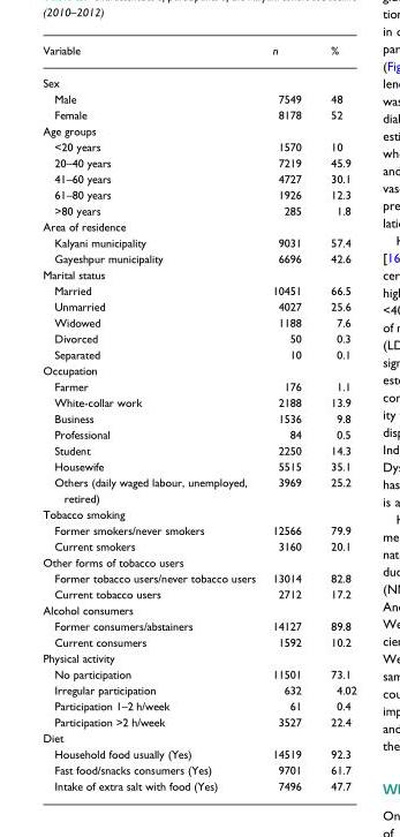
<table><thead><tr><td>Variable</td><td>n</td><td>%</td></tr></thead><tbody><tr><td colspan="3">Sex</td></tr><tr><td>Male</td><td>7549</td><td>48</td></tr><tr><td>Female</td><td>8178</td><td>52</td></tr><tr><td colspan="3">Age groups</td></tr><tr><td>&lt;20 years</td><td>1570</td><td>10</td></tr><tr><td>20–40 years</td><td>7219</td><td>45.9</td></tr><tr><td>41–60 years</td><td>4727</td><td>30.1</td></tr><tr><td>61–80 years</td><td>1926</td><td>12.3</td></tr><tr><td>&gt;80 years</td><td>285</td><td>1.8</td></tr><tr><td colspan="3">Area of residence</td></tr><tr><td>Kalyani municipality</td><td>9031</td><td>57.4</td></tr><tr><td>Gayeshpur municipality</td><td>6696</td><td>42.6</td></tr><tr><td colspan="3">Marital status</td></tr><tr><td>Married</td><td>10451</td><td>66.5</td></tr><tr><td>Unmarried</td><td>4027</td><td>25.6</td></tr><tr><td>Widowed</td><td>1188</td><td>7.6</td></tr><tr><td>Divorced</td><td>50</td><td>0.3</td></tr><tr><td>Separated</td><td>10</td><td>0.1</td></tr><tr><td colspan="3">Occupation</td></tr><tr><td>Farmer</td><td>176</td><td>1.1</td></tr><tr><td>White-collar work</td><td>2188</td><td>13.9</td></tr><tr><td>Business</td><td>1536</td><td>9.8</td></tr><tr><td>Professional</td><td>84</td><td>0.5</td></tr><tr><td>Student</td><td>2250</td><td>14.3</td></tr><tr><td>Housewife</td><td>5515</td><td>35.1</td></tr><tr><td>Others (daily waged labour, unemployed, retired)</td><td>3969</td><td>25.2</td></tr><tr><td colspan="3">Tobacco smoking</td></tr><tr><td>Former smokers/never smokers</td><td>12566</td><td>79.9</td></tr><tr><td>Current smokers</td><td>3160</td><td>20.1</td></tr><tr><td colspan="3">Other forms of tobacco users</td></tr><tr><td>Former tobacco users/never tobacco users</td><td>13014</td><td>82.8</td></tr><tr><td>Current tobacco users</td><td>2712</td><td>17.2</td></tr><tr><td colspan="3">Alcohol consumers</td></tr><tr><td>Former consumers/abstainers</td><td>14127</td><td>89.8</td></tr><tr><td>Current consumers</td><td>1592</td><td>10.2</td></tr><tr><td colspan="3">Physical activity</td></tr><tr><td>No participation</td><td>11501</td><td>73.1</td></tr><tr><td>Irregular participation</td><td>632</td><td>4.02</td></tr><tr><td>Participation 1–2 h/week</td><td>61</td><td>0.4</td></tr><tr><td>Participation &gt;2 h/week</td><td>3527</td><td>22.4</td></tr><tr><td colspan="3">Diet</td></tr><tr><td>Household food usually (Yes)</td><td>14519</td><td>92.3</td></tr><tr><td>Fast food/snacks consumers (Yes)</td><td>9701</td><td>61.7</td></tr><tr><td>Intake of extra salt with food (Yes)</td><td>7496</td><td>47.7</td></tr></tbody></table>